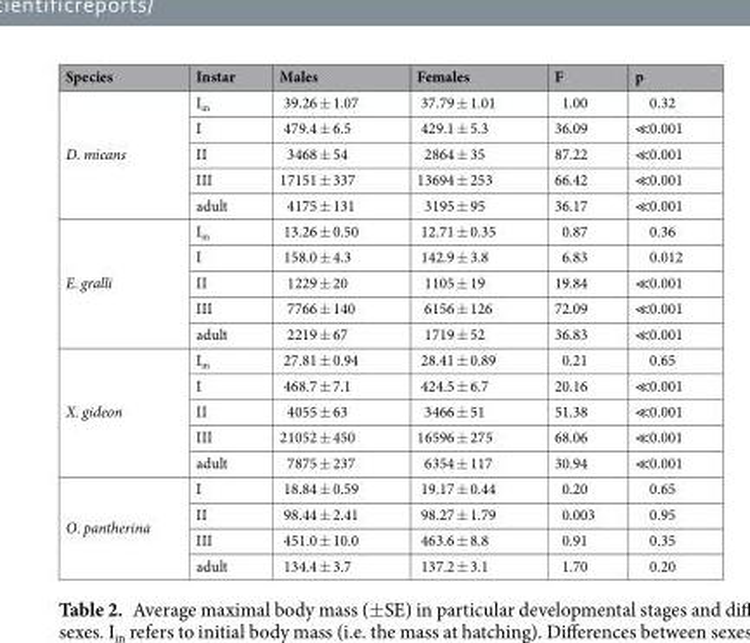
<table><thead><tr><td>Species</td><td>Instar</td><td>Males</td><td>Females</td><td>F</td><td>p</td></tr></thead><tbody><tr><td rowspan="5">D. micans</td><td>I<sub>in</sub></td><td>39.26 ± 1.07</td><td>37.79 ± 1.01</td><td>1.00</td><td>0.32</td></tr><tr><td>I</td><td>479.4 ± 6.5</td><td>429.1 ± 5.3</td><td>36.09</td><td>≪0.001</td></tr><tr><td>II</td><td>3468 ± 54</td><td>2864 ± 35</td><td>87.22</td><td>≪0.001</td></tr><tr><td>III</td><td>17151 ± 337</td><td>13694 ± 253</td><td>66.42</td><td>≪0.001</td></tr><tr><td>adult</td><td>4175 ± 131</td><td>3195 ± 95</td><td>36.17</td><td>≪0.001</td></tr><tr><td rowspan="5">E. gralli</td><td>I<sub>in</sub></td><td>13.26 ± 0.50</td><td>12.71 ± 0.35</td><td>0.87</td><td>0.36</td></tr><tr><td>I</td><td>158.0 ± 4.3</td><td>142.9 ± 3.8</td><td>6.83</td><td>0.012</td></tr><tr><td>II</td><td>1229 ± 20</td><td>1105 ± 19</td><td>19.84</td><td>≪0.001</td></tr><tr><td>III</td><td>7766 ± 140</td><td>6156 ± 126</td><td>72.09</td><td>≪0.001</td></tr><tr><td>adult</td><td>2219 ± 67</td><td>1719 ± 52</td><td>36.83</td><td>≪0.001</td></tr><tr><td rowspan="5">X. gideon</td><td>I<sub>in</sub></td><td>27.81 ± 0.94</td><td>28.41 ± 0.89</td><td>0.21</td><td>0.65</td></tr><tr><td>I</td><td>468.7 ± 7.1</td><td>424.5 ± 6.7</td><td>20.16</td><td>≪0.001</td></tr><tr><td>II</td><td>4055 ± 63</td><td>3466 ± 51</td><td>51.38</td><td>≪0.001</td></tr><tr><td>III</td><td>21052 ± 450</td><td>16596 ± 275</td><td>68.06</td><td>≪0.001</td></tr><tr><td>adult</td><td>7875 ± 237</td><td>6354 ± 117</td><td>30.94</td><td>≪0.001</td></tr><tr><td rowspan="4">O. pantherina</td><td>I</td><td>18.84 ± 0.59</td><td>19.17 ± 0.44</td><td>0.20</td><td>0.65</td></tr><tr><td>II</td><td>98.44 ± 2.41</td><td>98.27 ± 1.79</td><td>0.003</td><td>0.95</td></tr><tr><td>III</td><td>451.0 ± 10.0</td><td>463.6 ± 8.8</td><td>0.91</td><td>0.35</td></tr><tr><td>adult</td><td>134.4 ± 3.7</td><td>137.2 ± 3.1</td><td>1.70</td><td>0.20</td></tr></tbody></table>